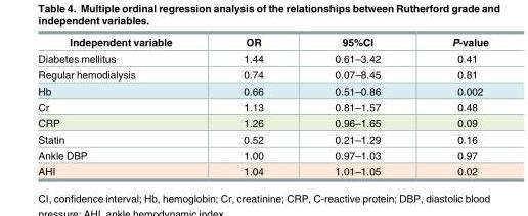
<table><thead><tr><td>Independent variable</td><td>OR</td><td>95%CI</td><td>P-value</td></tr></thead><tbody><tr><td>Diabetes mellitus</td><td>1.44</td><td>0.61–3.42</td><td>0.41</td></tr><tr><td>Regular hemodialysis</td><td>0.74</td><td>0.07–8.45</td><td>0.81</td></tr><tr><td>Hb</td><td>0.66</td><td>0.51–0.86</td><td>0.002</td></tr><tr><td>Cr</td><td>1.13</td><td>0.81–1.57</td><td>0.48</td></tr><tr><td>CRP</td><td>1.26</td><td>0.96–1.65</td><td>0.09</td></tr><tr><td>Statin</td><td>0.52</td><td>0.21–1.29</td><td>0.16</td></tr><tr><td>Ankle DBP</td><td>1.00</td><td>0.97–1.03</td><td>0.97</td></tr><tr><td>AHI</td><td>1.04</td><td>1.01–1.05</td><td>0.02</td></tr></tbody></table>